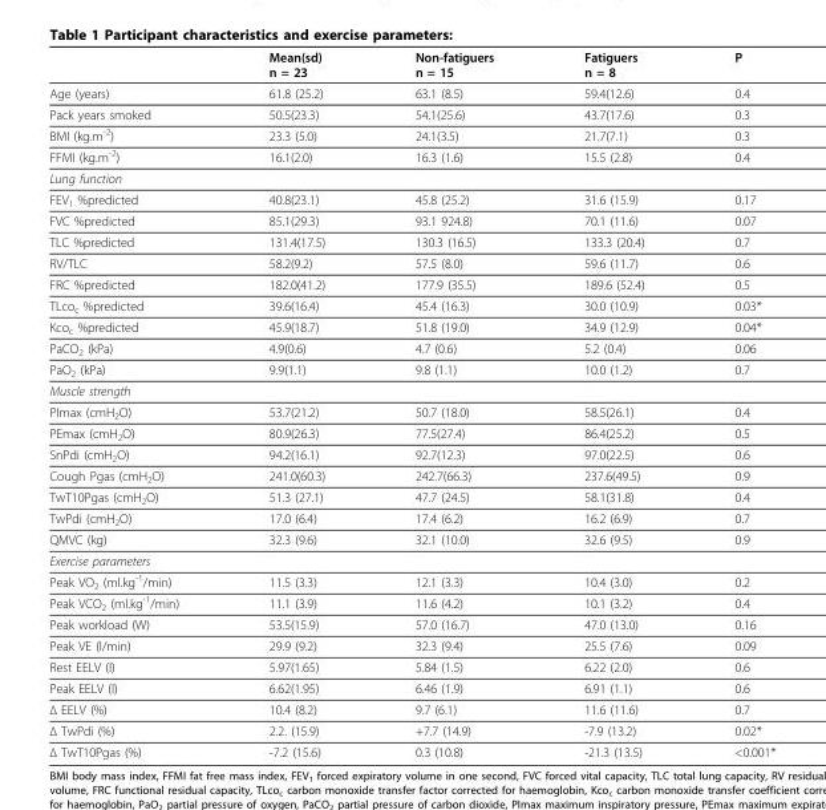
<table><thead><tr><td></td><td>Mean(sd) n = 23</td><td>Non-fatiguers n = 15</td><td>Fatiguers n = 8</td><td>P</td></tr></thead><tbody><tr><td>Age (years)</td><td>61.8 (25.2)</td><td>63.1 (8.5)</td><td>59.4(12.6)</td><td>0.4</td></tr><tr><td>Pack years smoked</td><td>50.5(23.3)</td><td>54.1(25.6)</td><td>43.7(17.6)</td><td>0.3</td></tr><tr><td>BMI (kg.m<sup>-2</sup>)</td><td>23.3 (5.0)</td><td>24.1(3.5)</td><td>21.7(7.1)</td><td>0.3</td></tr><tr><td>FFMI (kg.m<sup>-2</sup>)</td><td>16.1(2.0)</td><td>16.3 (1.6)</td><td>15.5 (2.8)</td><td>0.4</td></tr><tr><td colspan="5">Lung function</td></tr><tr><td>FEV<sub>1</sub> %predicted</td><td>40.8(23.1)</td><td>45.8 (25.2)</td><td>31.6 (15.9)</td><td>0.17</td></tr><tr><td>FVC %predicted</td><td>85.1(29.3)</td><td>93.1 924.8)</td><td>70.1 (11.6)</td><td>0.07</td></tr><tr><td>TLC %predicted</td><td>131.4(17.5)</td><td>130.3 (16.5)</td><td>133.3 (20.4)</td><td>0.7</td></tr><tr><td>RV/TLC</td><td>58.2(9.2)</td><td>57.5 (8.0)</td><td>59.6 (11.7)</td><td>0.6</td></tr><tr><td>FRC %predicted</td><td>182.0(41.2)</td><td>177.9 (35.5)</td><td>189.6 (52.4)</td><td>0.5</td></tr><tr><td>TLco<sub>c</sub> %predicted</td><td>39.6(16.4)</td><td>45.4 (16.3)</td><td>30.0 (10.9)</td><td>0.03*</td></tr><tr><td>Kco<sub>c</sub> %predicted</td><td>45.9(18.7)</td><td>51.8 (19.0)</td><td>34.9 (12.9)</td><td>0.04*</td></tr><tr><td>PaCO<sub>2</sub> (kPa)</td><td>4.9(0.6)</td><td>4.7 (0.6)</td><td>5.2 (0.4)</td><td>0.06</td></tr><tr><td>PaO<sub>2</sub> (kPa)</td><td>9.9(1.1)</td><td>9.8 (1.1)</td><td>10.0 (1.2)</td><td>0.7</td></tr><tr><td colspan="5">Muscle strength</td></tr><tr><td>PImax (cmH<sub>2</sub>O)</td><td>53.7(21.2)</td><td>50.7 (18.0)</td><td>58.5(26.1)</td><td>0.4</td></tr><tr><td>PEmax (cmH<sub>2</sub>O)</td><td>80.9(26.3)</td><td>77.5(27.4)</td><td>86.4(25.2)</td><td>0.5</td></tr><tr><td>SnPdi (cmH<sub>2</sub>O)</td><td>94.2(16.1)</td><td>92.7(12.3)</td><td>97.0(22.5)</td><td>0.6</td></tr><tr><td>Cough Pgas (cmH<sub>2</sub>O)</td><td>241.0(60.3)</td><td>242.7(66.3)</td><td>237.6(49.5)</td><td>0.9</td></tr><tr><td>TwT10Pgas (cmH<sub>2</sub>O)</td><td>51.3 (27.1)</td><td>47.7 (24.5)</td><td>58.1(31.8)</td><td>0.4</td></tr><tr><td>TwPdi (cmH<sub>2</sub>O)</td><td>17.0 (6.4)</td><td>17.4 (6.2)</td><td>16.2 (6.9)</td><td>0.7</td></tr><tr><td>QMVC (kg)</td><td>32.3 (9.6)</td><td>32.1 (10.0)</td><td>32.6 (9.5)</td><td>0.9</td></tr><tr><td colspan="5">Exercise parameters</td></tr><tr><td>Peak VO<sub>2</sub> (ml.kg<sup>-1</sup>/min)</td><td>11.5 (3.3)</td><td>12.1 (3.3)</td><td>10.4 (3.0)</td><td>0.2</td></tr><tr><td>Peak VCO<sub>2</sub> (ml.kg<sup>-1</sup>/min)</td><td>11.1 (3.9)</td><td>11.6 (4.2)</td><td>10.1 (3.2)</td><td>0.4</td></tr><tr><td>Peak workload (W)</td><td>53.5(15.9)</td><td>57.0 (16.7)</td><td>47.0 (13.0)</td><td>0.16</td></tr><tr><td>Peak VE (l/min)</td><td>29.9 (9.2)</td><td>32.3 (9.4)</td><td>25.5 (7.6)</td><td>0.09</td></tr><tr><td>Rest EELV (l)</td><td>5.97(1.65)</td><td>5.84 (1.5)</td><td>6.22 (2.0)</td><td>0.6</td></tr><tr><td>Peak EELV (l)</td><td>6.62(1.95)</td><td>6.46 (1.9)</td><td>6.91 (1.1)</td><td>0.6</td></tr><tr><td>Δ EELV (%)</td><td>10.4 (8.2)</td><td>9.7 (6.1)</td><td>11.6 (11.6)</td><td>0.7</td></tr><tr><td>Δ TwPdi (%)</td><td>2.2. (15.9)</td><td>+7.7 (14.9)</td><td>-7.9 (13.2)</td><td>0.02*</td></tr><tr><td>Δ TwT10Pgas (%)</td><td>-7.2 (15.6)</td><td>0.3 (10.8)</td><td>-21.3 (13.5)</td><td>&lt;0.001*</td></tr></tbody></table>